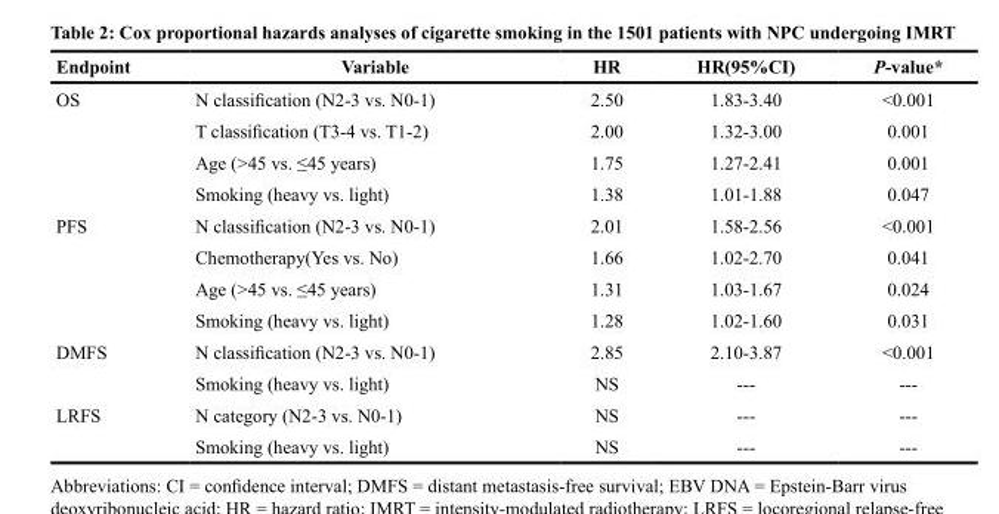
<table><thead><tr><td>Endpoint</td><td>Variable</td><td>HR</td><td>HR(95%CI)</td><td>P-value*</td></tr></thead><tbody><tr><td rowspan="4">OS</td><td>N classification (N2-3 vs. N0-1)</td><td>2.50</td><td>1.83-3.40</td><td>&lt;0.001</td></tr><tr><td>T classification (T3-4 vs. T1-2)</td><td>2.00</td><td>1.32-3.00</td><td>0.001</td></tr><tr><td>Age (&gt;45 vs. ≤45 years)</td><td>1.75</td><td>1.27-2.41</td><td>0.001</td></tr><tr><td>Smoking (heavy vs. light)</td><td>1.38</td><td>1.01-1.88</td><td>0.047</td></tr><tr><td rowspan="4">PFS</td><td>N classification (N2-3 vs. N0-1)</td><td>2.01</td><td>1.58-2.56</td><td>&lt;0.001</td></tr><tr><td>Chemotherapy(Yes vs. No)</td><td>1.66</td><td>1.02-2.70</td><td>0.041</td></tr><tr><td>Age (&gt;45 vs. ≤45 years)</td><td>1.31</td><td>1.03-1.67</td><td>0.024</td></tr><tr><td>Smoking (heavy vs. light)</td><td>1.28</td><td>1.02-1.60</td><td>0.031</td></tr><tr><td rowspan="2">DMFS</td><td>N classification (N2-3 vs. N0-1)</td><td>2.85</td><td>2.10-3.87</td><td>&lt;0.001</td></tr><tr><td>Smoking (heavy vs. light)</td><td>NS</td><td>---</td><td>---</td></tr><tr><td rowspan="2">LRFS</td><td>N category (N2-3 vs. N0-1)</td><td>NS</td><td>---</td><td>---</td></tr><tr><td>Smoking (heavy vs. light)</td><td>NS</td><td>---</td><td>---</td></tr></tbody></table>